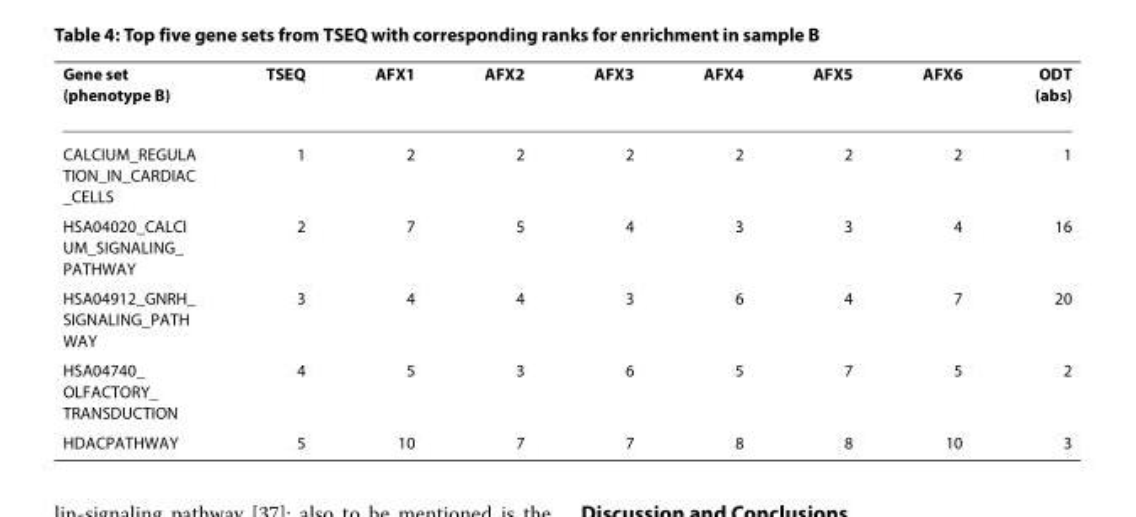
<table><thead><tr><td>Gene set (phenotype B)</td><td>TSEQ</td><td>AFX1</td><td>AFX2</td><td>AFX3</td><td>AFX4</td><td>AFX5</td><td>AFX6</td><td>ODT (abs)</td></tr></thead><tbody><tr><td>CALCIUM_REGULA TION_IN_CARDIAC _CELLS</td><td>1</td><td>2</td><td>2</td><td>2</td><td>2</td><td>2</td><td>2</td><td>1</td></tr><tr><td>HSA04020_CALCI UM_SIGNALING_ PATHWAY</td><td>2</td><td>7</td><td>5</td><td>4</td><td>3</td><td>3</td><td>4</td><td>16</td></tr><tr><td>HSA04912_GNRH_ SIGNALING_PATH WAY</td><td>3</td><td>4</td><td>4</td><td>3</td><td>6</td><td>4</td><td>7</td><td>20</td></tr><tr><td>HSA04740_ OLFACTORY_ TRANSDUCTION</td><td>4</td><td>5</td><td>3</td><td>6</td><td>5</td><td>7</td><td>5</td><td>2</td></tr><tr><td>HDACPATHWAY</td><td>5</td><td>10</td><td>7</td><td>7</td><td>8</td><td>8</td><td>10</td><td>3</td></tr></tbody></table>